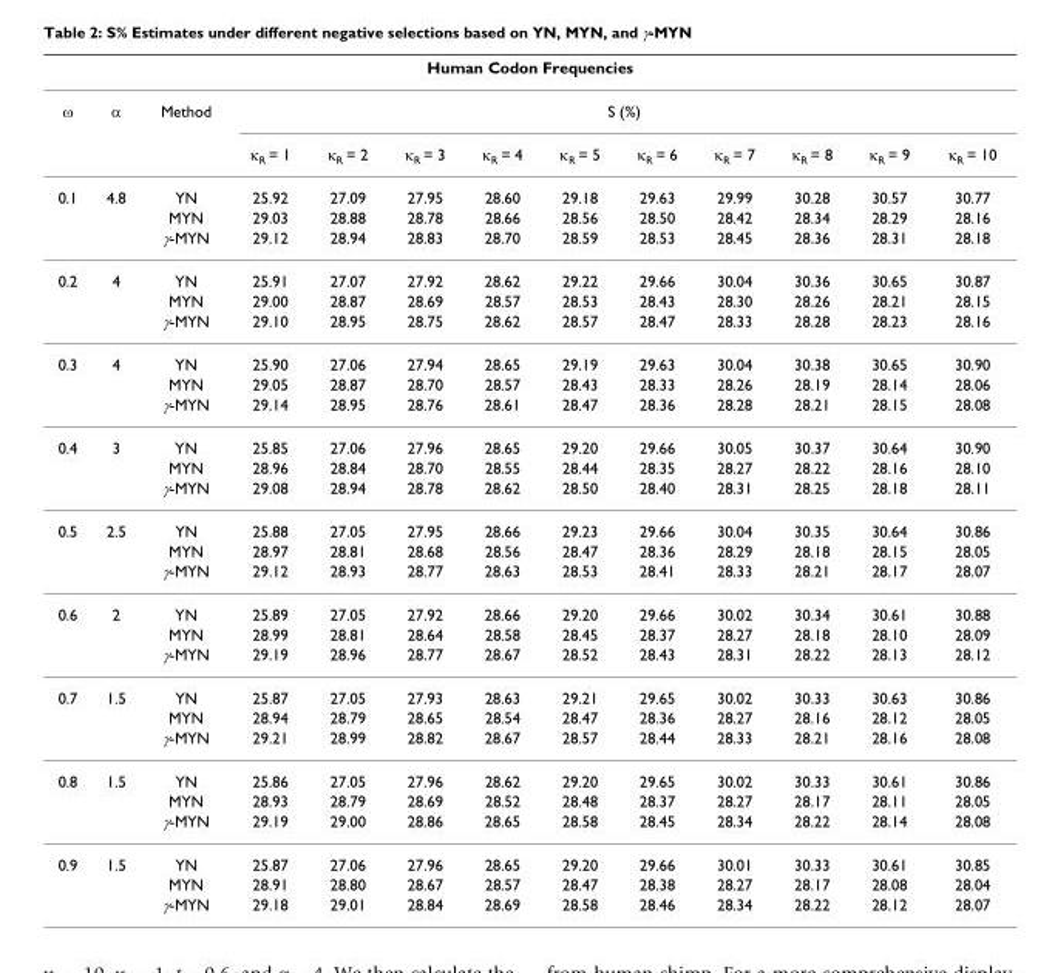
<table><thead><tr><td colspan="13">Human Codon Frequencies</td></tr><tr><td rowspan="2">ω</td><td rowspan="2">α</td><td rowspan="2">Method</td><td colspan="10">S (%)</td></tr><tr><td>κ<sub>R</sub> = 1</td><td>κ<sub>R</sub> = 2</td><td>κ<sub>R</sub> = 3</td><td>κ<sub>R</sub> = 4</td><td>κ<sub>R</sub> = 5</td><td>κ<sub>R</sub> = 6</td><td>κ<sub>R</sub> = 7</td><td>κ<sub>R</sub> = 8</td><td>κ<sub>R</sub> = 9</td><td>κ<sub>R</sub> = 10</td></tr></thead><tbody><tr><td rowspan="3">0.1</td><td>4.8</td><td>YN</td><td>25.92</td><td>27.09</td><td>27.95</td><td>28.60</td><td>29.18</td><td>29.63</td><td>29.99</td><td>30.28</td><td>30.57</td><td>30.77</td></tr><tr><td></td><td>MYN</td><td>29.03</td><td>28.88</td><td>28.78</td><td>28.66</td><td>28.56</td><td>28.50</td><td>28.42</td><td>28.34</td><td>28.29</td><td>28.16</td></tr><tr><td></td><td>γ-MYN</td><td>29.12</td><td>28.94</td><td>28.83</td><td>28.70</td><td>28.59</td><td>28.53</td><td>28.45</td><td>28.36</td><td>28.31</td><td>28.18</td></tr><tr><td rowspan="3">0.2</td><td>4</td><td>YN</td><td>25.91</td><td>27.07</td><td>27.92</td><td>28.62</td><td>29.22</td><td>29.66</td><td>30.04</td><td>30.36</td><td>30.65</td><td>30.87</td></tr><tr><td></td><td>MYN</td><td>29.00</td><td>28.87</td><td>28.69</td><td>28.57</td><td>28.53</td><td>28.43</td><td>28.30</td><td>28.26</td><td>28.21</td><td>28.15</td></tr><tr><td></td><td>γ-MYN</td><td>29.10</td><td>28.95</td><td>28.75</td><td>28.62</td><td>28.57</td><td>28.47</td><td>28.33</td><td>28.28</td><td>28.23</td><td>28.16</td></tr><tr><td rowspan="3">0.3</td><td>4</td><td>YN</td><td>25.90</td><td>27.06</td><td>27.94</td><td>28.65</td><td>29.19</td><td>29.63</td><td>30.04</td><td>30.38</td><td>30.65</td><td>30.90</td></tr><tr><td></td><td>MYN</td><td>29.05</td><td>28.87</td><td>28.70</td><td>28.57</td><td>28.43</td><td>28.33</td><td>28.26</td><td>28.19</td><td>28.14</td><td>28.06</td></tr><tr><td></td><td>γ-MYN</td><td>29.14</td><td>28.95</td><td>28.76</td><td>28.61</td><td>28.47</td><td>28.36</td><td>28.28</td><td>28.21</td><td>28.15</td><td>28.08</td></tr><tr><td rowspan="3">0.4</td><td>3</td><td>YN</td><td>25.85</td><td>27.06</td><td>27.96</td><td>28.65</td><td>29.20</td><td>29.66</td><td>30.05</td><td>30.37</td><td>30.64</td><td>30.90</td></tr><tr><td></td><td>MYN</td><td>28.96</td><td>28.84</td><td>28.70</td><td>28.55</td><td>28.44</td><td>28.35</td><td>28.27</td><td>28.22</td><td>28.16</td><td>28.10</td></tr><tr><td></td><td>γ-MYN</td><td>29.08</td><td>28.94</td><td>28.78</td><td>28.62</td><td>28.50</td><td>28.40</td><td>28.31</td><td>28.25</td><td>28.18</td><td>28.11</td></tr><tr><td rowspan="3">0.5</td><td>2.5</td><td>YN</td><td>25.88</td><td>27.05</td><td>27.95</td><td>28.66</td><td>29.23</td><td>29.66</td><td>30.04</td><td>30.35</td><td>30.64</td><td>30.86</td></tr><tr><td></td><td>MYN</td><td>28.97</td><td>28.81</td><td>28.68</td><td>28.56</td><td>28.47</td><td>28.36</td><td>28.29</td><td>28.18</td><td>28.15</td><td>28.05</td></tr><tr><td></td><td>γ-MYN</td><td>29.12</td><td>28.93</td><td>28.77</td><td>28.63</td><td>28.53</td><td>28.41</td><td>28.33</td><td>28.21</td><td>28.17</td><td>28.07</td></tr><tr><td rowspan="3">0.6</td><td>2</td><td>YN</td><td>25.89</td><td>27.05</td><td>27.92</td><td>28.66</td><td>29.20</td><td>29.66</td><td>30.02</td><td>30.34</td><td>30.61</td><td>30.88</td></tr><tr><td></td><td>MYN</td><td>28.99</td><td>28.81</td><td>28.64</td><td>28.58</td><td>28.45</td><td>28.37</td><td>28.27</td><td>28.18</td><td>28.10</td><td>28.09</td></tr><tr><td></td><td>γ-MYN</td><td>29.19</td><td>28.96</td><td>28.77</td><td>28.67</td><td>28.52</td><td>28.43</td><td>28.31</td><td>28.22</td><td>28.13</td><td>28.12</td></tr><tr><td rowspan="3">0.7</td><td>1.5</td><td>YN</td><td>25.87</td><td>27.05</td><td>27.93</td><td>28.63</td><td>29.21</td><td>29.65</td><td>30.02</td><td>30.33</td><td>30.63</td><td>30.86</td></tr><tr><td></td><td>MYN</td><td>28.94</td><td>28.79</td><td>28.65</td><td>28.54</td><td>28.47</td><td>28.36</td><td>28.27</td><td>28.16</td><td>28.12</td><td>28.05</td></tr><tr><td></td><td>γ-MYN</td><td>29.21</td><td>28.99</td><td>28.82</td><td>28.67</td><td>28.57</td><td>28.44</td><td>28.33</td><td>28.21</td><td>28.16</td><td>28.08</td></tr><tr><td rowspan="3">0.8</td><td>1.5</td><td>YN</td><td>25.86</td><td>27.05</td><td>27.96</td><td>28.62</td><td>29.20</td><td>29.65</td><td>30.02</td><td>30.33</td><td>30.61</td><td>30.86</td></tr><tr><td></td><td>MYN</td><td>28.93</td><td>28.79</td><td>28.69</td><td>28.52</td><td>28.48</td><td>28.37</td><td>28.27</td><td>28.17</td><td>28.11</td><td>28.05</td></tr><tr><td></td><td>γ-MYN</td><td>29.19</td><td>29.00</td><td>28.86</td><td>28.65</td><td>28.58</td><td>28.45</td><td>28.34</td><td>28.22</td><td>28.14</td><td>28.08</td></tr><tr><td rowspan="3">0.9</td><td>1.5</td><td>YN</td><td>25.87</td><td>27.06</td><td>27.96</td><td>28.65</td><td>29.20</td><td>29.66</td><td>30.01</td><td>30.33</td><td>30.61</td><td>30.85</td></tr><tr><td></td><td>MYN</td><td>28.91</td><td>28.80</td><td>28.67</td><td>28.57</td><td>28.47</td><td>28.38</td><td>28.27</td><td>28.17</td><td>28.08</td><td>28.04</td></tr><tr><td></td><td>γ-MYN</td><td>29.18</td><td>29.01</td><td>28.84</td><td>28.69</td><td>28.58</td><td>28.46</td><td>28.34</td><td>28.22</td><td>28.12</td><td>28.07</td></tr></tbody></table>